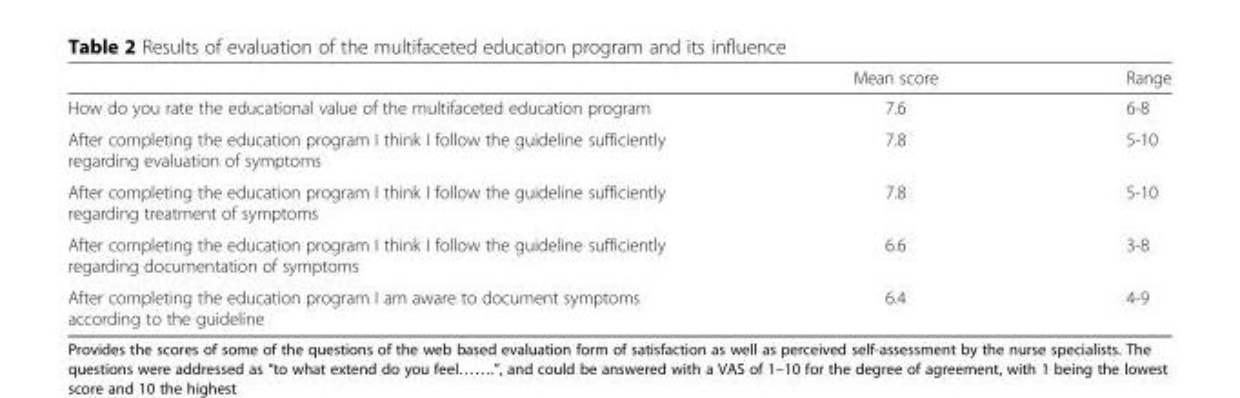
<table><thead><tr><td></td><td>Mean score</td><td>Range</td></tr></thead><tbody><tr><td>How do you rate the educational value of the multifaceted education program</td><td>7.6</td><td>6-8</td></tr><tr><td>After completing the education program I think I follow the guideline sufficiently regarding evaluation of symptoms</td><td>7.8</td><td>5-10</td></tr><tr><td>After completing the education program I think I follow the guideline sufficiently regarding treatment of symptoms</td><td>7.8</td><td>5-10</td></tr><tr><td>After completing the education program I think I follow the guideline sufficiently regarding documentation of symptoms</td><td>6.6</td><td>3-8</td></tr><tr><td>After completing the education program I am aware to document symptoms according to the guideline</td><td>6.4</td><td>4-9</td></tr></tbody></table>